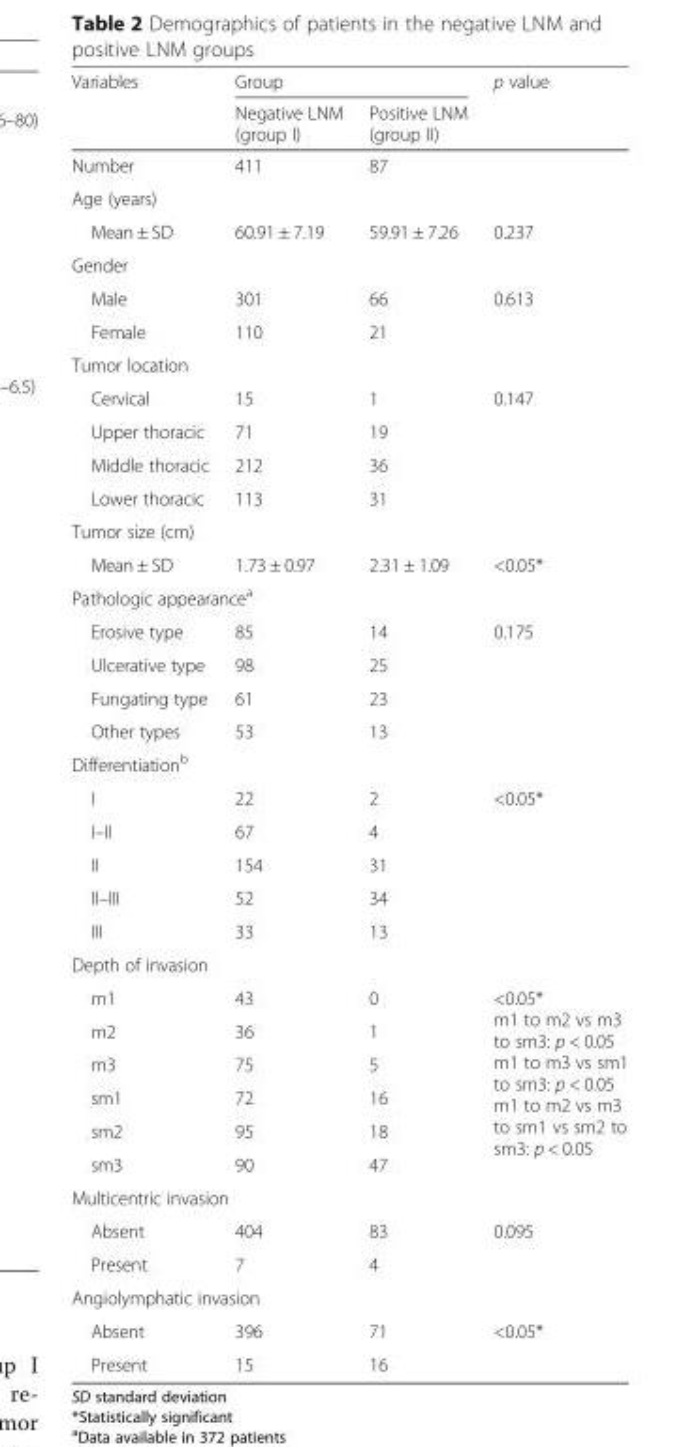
<table><thead><tr><td rowspan="2">Variables</td><td colspan="2">Group</td><td rowspan="2">p value</td></tr><tr><td>Negative LNM (group I)</td><td>Positive LNM (group II)</td></tr></thead><tbody><tr><td>Number</td><td>411</td><td>87</td><td></td></tr><tr><td colspan="4">Age (years)</td></tr><tr><td>Mean ± SD</td><td>60.91 ± 7.19</td><td>59.91 ± 7.26</td><td>0.237</td></tr><tr><td colspan="4">Gender</td></tr><tr><td>Male</td><td>301</td><td>66</td><td rowspan="2">0.613</td></tr><tr><td>Female</td><td>110</td><td>21</td></tr><tr><td colspan="4">Tumor location</td></tr><tr><td>Cervical</td><td>15</td><td>1</td><td rowspan="4">0.147</td></tr><tr><td>Upper thoracic</td><td>71</td><td>19</td></tr><tr><td>Middle thoracic</td><td>212</td><td>36</td></tr><tr><td>Lower thoracic</td><td>113</td><td>31</td></tr><tr><td colspan="4">Tumor size (cm)</td></tr><tr><td>Mean ± SD</td><td>1.73 ± 0.97</td><td>2.31 ± 1.09</td><td>&lt;0.05*</td></tr><tr><td colspan="4">Pathologic appearance<sup>a</sup></td></tr><tr><td>Erosive type</td><td>85</td><td>14</td><td rowspan="4">0.175</td></tr><tr><td>Ulcerative type</td><td>98</td><td>25</td></tr><tr><td>Fungating type</td><td>61</td><td>23</td></tr><tr><td>Other types</td><td>53</td><td>13</td></tr><tr><td colspan="4">Differentiation<sup>b</sup></td></tr><tr><td>I</td><td>22</td><td>2</td><td rowspan="5">&lt;0.05*</td></tr><tr><td>I–II</td><td>67</td><td>4</td></tr><tr><td>II</td><td>154</td><td>31</td></tr><tr><td>II–III</td><td>52</td><td>34</td></tr><tr><td>III</td><td>33</td><td>13</td></tr><tr><td colspan="4">Depth of invasion</td></tr><tr><td>m1</td><td>43</td><td>0</td><td rowspan="6">&lt;0.05* m1 to m2 vs m3 to sm3: p &lt; 0.05 m1 to m3 vs sm1 to sm3: p &lt; 0.05 m1 to m2 vs m3 to sm1 vs sm2 to sm3: p &lt; 0.05</td></tr><tr><td>m2</td><td>36</td><td>1</td></tr><tr><td>m3</td><td>75</td><td>5</td></tr><tr><td>sm1</td><td>72</td><td>16</td></tr><tr><td>sm2</td><td>95</td><td>18</td></tr><tr><td>sm3</td><td>90</td><td>47</td></tr><tr><td colspan="4">Multicentric invasion</td></tr><tr><td>Absent</td><td>404</td><td>83</td><td rowspan="2">0.095</td></tr><tr><td>Present</td><td>7</td><td>4</td></tr><tr><td colspan="4">Angiolymphatic invasion</td></tr><tr><td>Absent</td><td>396</td><td>71</td><td rowspan="2">&lt;0.05*</td></tr><tr><td>Present</td><td>15</td><td>16</td></tr></tbody></table>